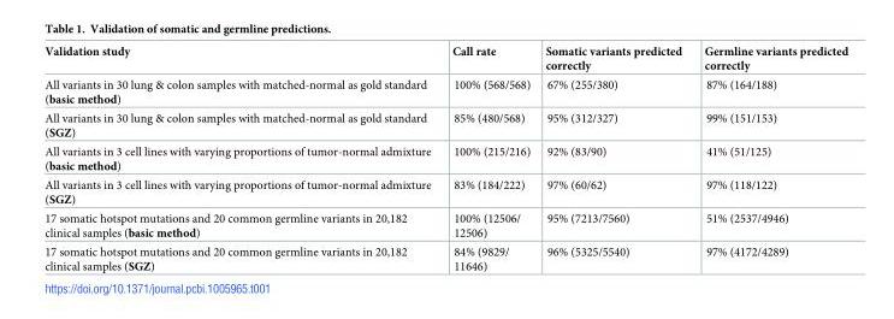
<table><thead><tr><td>Validation study</td><td>Call rate</td><td>Somatic variants predicted correctly</td><td>Germline variants predicted correctly</td></tr></thead><tbody><tr><td>All variants in 30 lung &amp; colon samples with matched-normal as gold standard (basic method)</td><td>100% (568/568)</td><td>67% (255/380)</td><td>87% (164/188)</td></tr><tr><td>All variants in 30 lung &amp; colon samples with matched-normal as gold standard (SGZ)</td><td>85% (480/568)</td><td>95% (312/327)</td><td>99% (151/153)</td></tr><tr><td>All variants in 3 cell lines with varying proportions of tumor-normal admixture (basic method)</td><td>100% (215/216)</td><td>92% (83/90)</td><td>41% (51/125)</td></tr><tr><td>All variants in 3 cell lines with varying proportions of tumor-normal admixture (SGZ)</td><td>83% (184/222)</td><td>97% (60/62)</td><td>97% (118/122)</td></tr><tr><td>17 somatic hotspot mutations and 20 common germline variants in 20,182 clinical samples (basic method)</td><td>100% (12506/ 12506)</td><td>95% (7213/7560)</td><td>51% (2537/4946)</td></tr><tr><td>17 somatic hotspot mutations and 20 common germline variants in 20,182 clinical samples (SGZ)</td><td>84% (9829/ 11646)</td><td>96% (5325/5540)</td><td>97% (4172/4289)</td></tr></tbody></table>